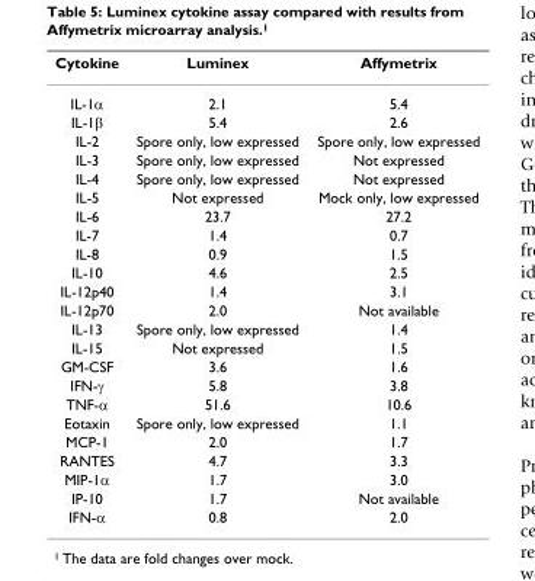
<table><thead><tr><td>Cytokine</td><td>Luminex</td><td>Affymetrix</td></tr></thead><tbody><tr><td>IL-1α</td><td>2.1</td><td>5.4</td></tr><tr><td>IL-1β</td><td>5.4</td><td>2.6</td></tr><tr><td>IL-2</td><td>Spore only, low expressed</td><td>Spore only, low expressed</td></tr><tr><td>IL-3</td><td>Spore only, low expressed</td><td>Not expressed</td></tr><tr><td>IL-4</td><td>Spore only, low expressed</td><td>Not expressed</td></tr><tr><td>IL-5</td><td>Not expressed</td><td>Mock only, low expressed</td></tr><tr><td>IL-6</td><td>23.7</td><td>27.2</td></tr><tr><td>IL-7</td><td>1.4</td><td>0.7</td></tr><tr><td>IL-8</td><td>0.9</td><td>1.5</td></tr><tr><td>IL-10</td><td>4.6</td><td>2.5</td></tr><tr><td>IL-12p40</td><td>1.4</td><td>3.1</td></tr><tr><td>IL-12p70</td><td>2.0</td><td>Not available</td></tr><tr><td>IL-13</td><td>Spore only, low expressed</td><td>1.4</td></tr><tr><td>IL-15</td><td>Not expressed</td><td>1.5</td></tr><tr><td>GM-CSF</td><td>3.6</td><td>1.6</td></tr><tr><td>IFN-γ</td><td>5.8</td><td>3.8</td></tr><tr><td>TNF-α</td><td>51.6</td><td>10.6</td></tr><tr><td>Eotaxin</td><td>Spore only, low expressed</td><td>1.1</td></tr><tr><td>MCP-1</td><td>2.0</td><td>1.7</td></tr><tr><td>RANTES</td><td>4.7</td><td>3.3</td></tr><tr><td>MIP-1α</td><td>1.7</td><td>3.0</td></tr><tr><td>IP-10</td><td>1.7</td><td>Not available</td></tr><tr><td>IFN-α</td><td>0.8</td><td>2.0</td></tr></tbody></table>